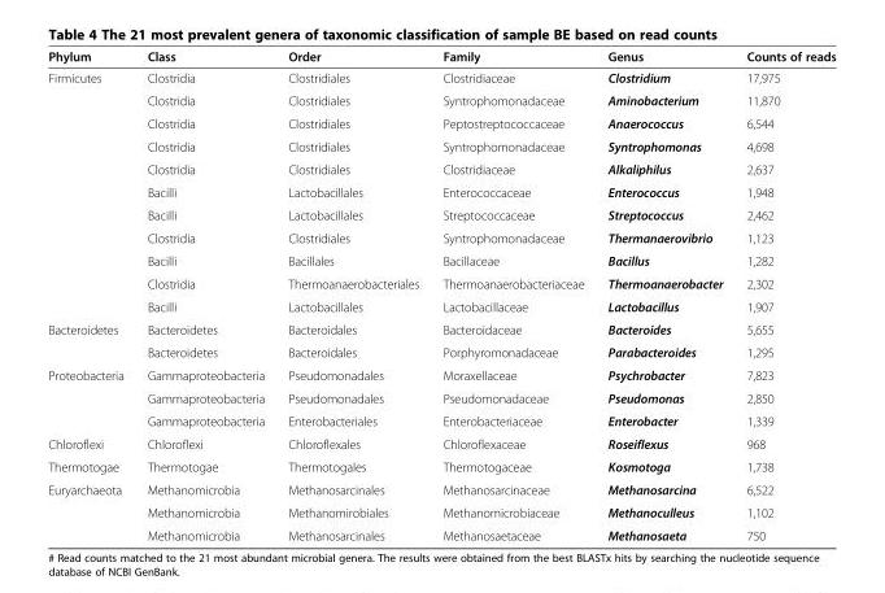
<table><thead><tr><td>Phylum</td><td>Class</td><td>Order</td><td>Family</td><td>Genus</td><td>Counts of reads</td></tr></thead><tbody><tr><td rowspan="11">Firmicutes</td><td>Clostridia</td><td>Clostridiales</td><td>Clostridiaceae</td><td>Clostridium</td><td>17,975</td></tr><tr><td>Clostridia</td><td>Clostridiales</td><td>Syntrophomonadaceae</td><td>Aminobacterium</td><td>11,870</td></tr><tr><td>Clostridia</td><td>Clostridiales</td><td>Peptostreptococcaceae</td><td>Anaerococcus</td><td>6,544</td></tr><tr><td>Clostridia</td><td>Clostridiales</td><td>Syntrophomonadaceae</td><td>Syntrophomonas</td><td>4,698</td></tr><tr><td>Clostridia</td><td>Clostridiales</td><td>Clostridiaceae</td><td>Alkaliphilus</td><td>2,637</td></tr><tr><td>Bacilli</td><td>Lactobacillales</td><td>Enterococcaceae</td><td>Enterococcus</td><td>1,948</td></tr><tr><td>Bacilli</td><td>Lactobacillales</td><td>Streptococcaceae</td><td>Streptococcus</td><td>2,462</td></tr><tr><td>Clostridia</td><td>Clostridiales</td><td>Syntrophomonadaceae</td><td>Thermanaerovibrio</td><td>1,123</td></tr><tr><td>Bacilli</td><td>Bacillales</td><td>Bacillaceae</td><td>Bacillus</td><td>1,282</td></tr><tr><td>Clostridia</td><td>Thermoanaerobacteriales</td><td>Thermoanaerobacteriaceae</td><td>Thermoanaerobacter</td><td>2,302</td></tr><tr><td>Bacilli</td><td>Lactobacillales</td><td>Lactobacillaceae</td><td>Lactobacillus</td><td>1,907</td></tr><tr><td rowspan="2">Bacteroidetes</td><td>Bacteroidetes</td><td>Bacteroidales</td><td>Bacteroidaceae</td><td>Bacteroides</td><td>5,655</td></tr><tr><td>Bacteroidetes</td><td>Bacteroidales</td><td>Porphyromonadaceae</td><td>Parabacteroides</td><td>1,295</td></tr><tr><td rowspan="3">Proteobacteria</td><td>Gammaproteobacteria</td><td>Pseudomonadales</td><td>Moraxellaceae</td><td>Psychrobacter</td><td>7,823</td></tr><tr><td>Gammaproteobacteria</td><td>Pseudomonadales</td><td>Pseudomonadaceae</td><td>Pseudomonas</td><td>2,850</td></tr><tr><td>Gammaproteobacteria</td><td>Enterobacteriales</td><td>Enterobacteriaceae</td><td>Enterobacter</td><td>1,339</td></tr><tr><td>Chloroflexi</td><td>Chloroflexi</td><td>Chloroflexales</td><td>Chloroflexaceae</td><td>Roseiflexus</td><td>968</td></tr><tr><td>Thermotogae</td><td>Thermotogae</td><td>Thermotogales</td><td>Thermotogaceae</td><td>Kosmotoga</td><td>1,738</td></tr><tr><td rowspan="3">Euryarchaeota</td><td>Methanomicrobia</td><td>Methanosarcinales</td><td>Methanosarcinaceae</td><td>Methanosarcina</td><td>6,522</td></tr><tr><td>Methanomicrobia</td><td>Methanomirobiales</td><td>Methanomicrobiaceae</td><td>Methanoculleus</td><td>1,102</td></tr><tr><td>Methanomicrobia</td><td>Methanosarcinales</td><td>Methanosaetaceae</td><td>Methanosaeta</td><td>750</td></tr></tbody></table>